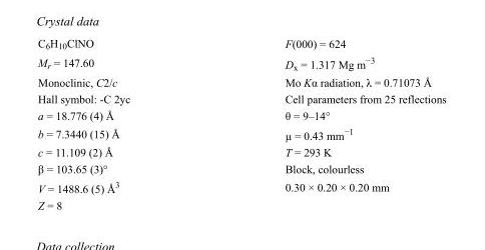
<table><tbody><tr><td>C<sub>6</sub>H<sub>10</sub>ClNO</td><td>F(000) = 624</td></tr><tr><td>M<sub>r</sub> = 147.60</td><td>D<sub>x</sub> = 1.317 Mg m<sup>−3</sup></td></tr><tr><td>Monoclinic, C2/c</td><td>Mo Kα radiation, λ = 0.71073 Å</td></tr><tr><td>Hall symbol: -C 2yc</td><td>Cell parameters from 25 reflections</td></tr><tr><td>a = 18.776 (4) Å</td><td>θ = 9–14°</td></tr><tr><td>b = 7.3440 (15) Å</td><td>µ = 0.43 mm<sup>−1</sup></td></tr><tr><td>c = 11.109 (2) Å</td><td>T = 293 K</td></tr><tr><td>β = 103.65 (3)°</td><td>Block, colourless</td></tr><tr><td>V = 1488.6 (5) Å<sup>3</sup></td><td>0.30 × 0.20 × 0.20 mm</td></tr><tr><td>Z = 8</td><td></td></tr></tbody></table>